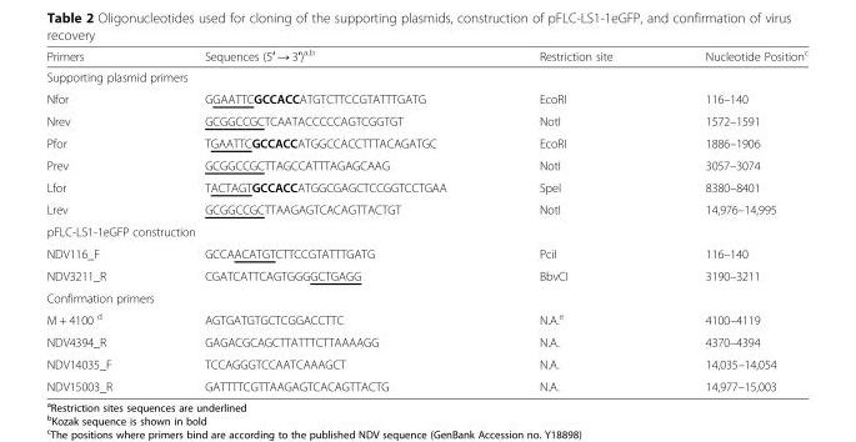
<table><thead><tr><td>Primers</td><td>Sequences (5′ → 3′)<sup>a,b</sup></td><td>Restriction site</td><td>Nucleotide Position<sup>c</sup></td></tr></thead><tbody><tr><td colspan="4">Supporting plasmid primers</td></tr><tr><td>Nfor</td><td>GGAATTCGCCACCATGTCTTCCGTATTTGATG</td><td>EcoRI</td><td>116–140</td></tr><tr><td>Nrev</td><td>GCGGCCGCTCAATACCCCCAGTCGGTGT</td><td>NotI</td><td>1572–1591</td></tr><tr><td>Pfor</td><td>TGAATTCGCCACCATGGCCACCTTTACAGATGC</td><td>EcoRI</td><td>1886–1906</td></tr><tr><td>Prev</td><td>GCGGCCGCTTAGCCATTTAGAGCAAG</td><td>NotI</td><td>3057–3074</td></tr><tr><td>Lfor</td><td>TACTAGTGCCACCATGGCGAGCTCCGGTCCTGAA</td><td>SpeI</td><td>8380–8401</td></tr><tr><td>Lrev</td><td>GCGGCCGCTTAAGAGTCACAGTTACTGT</td><td>NotI</td><td>14,976–14,995</td></tr><tr><td colspan="4">pFLC-LS1-1eGFP construction</td></tr><tr><td>NDV116_F</td><td>GCCAACATGTCTTCCGTATTTGATG</td><td>PciI</td><td>116–140</td></tr><tr><td>NDV3211_R</td><td>CGATCATTCAGTGGGGCTGAGG</td><td>BbvCI</td><td>3190–3211</td></tr><tr><td colspan="4">Confirmation primers</td></tr><tr><td>M + 4100 <sup>d</sup></td><td>AGTGATGTGCTCGGACCTTC</td><td>N.A.<sup>e</sup></td><td>4100–4119</td></tr><tr><td>NDV4394_R</td><td>GAGACGCAGCTTATTTCTTAAAAGG</td><td>N.A.</td><td>4370–4394</td></tr><tr><td>NDV14035_F</td><td>TCCAGGGTCCAATCAAAGCT</td><td>N.A.</td><td>14,035–14,054</td></tr><tr><td>NDV15003_R</td><td>GATTTTCGTTAAGAGTCACAGTTACTG</td><td>N.A.</td><td>14,977–15,003</td></tr></tbody></table>